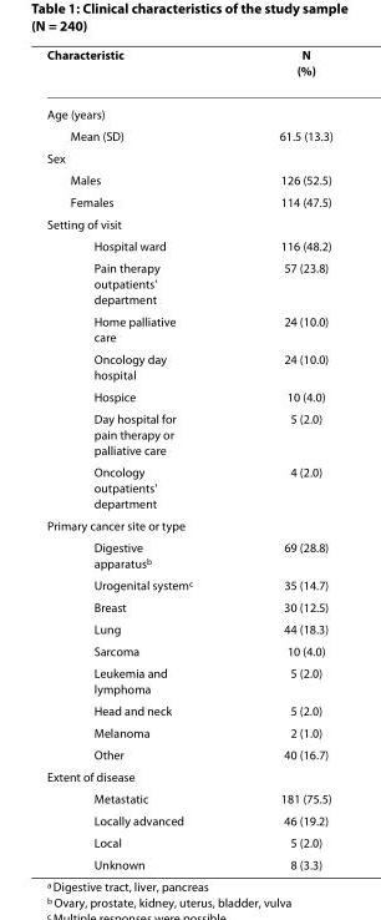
<table><thead><tr><td>Characteristic</td><td>N (%)</td></tr></thead><tbody><tr><td colspan="2">Age (years)</td></tr><tr><td>Mean (SD)</td><td>61.5 (13.3)</td></tr><tr><td colspan="2">Sex</td></tr><tr><td>Males</td><td>126 (52.5)</td></tr><tr><td>Females</td><td>114 (47.5)</td></tr><tr><td colspan="2">Setting of visit</td></tr><tr><td>Hospital ward</td><td>116 (48.2)</td></tr><tr><td>Pain therapy outpatients&#x27; department</td><td>57 (23.8)</td></tr><tr><td>Home palliative care</td><td>24 (10.0)</td></tr><tr><td>Oncology day hospital</td><td>24 (10.0)</td></tr><tr><td>Hospice</td><td>10 (4.0)</td></tr><tr><td>Day hospital for pain therapy or palliative care</td><td>5 (2.0)</td></tr><tr><td>Oncology outpatients&#x27; department</td><td>4 (2.0)</td></tr><tr><td colspan="2">Primary cancer site or type</td></tr><tr><td>Digestive apparatus<sup>b</sup></td><td>69 (28.8)</td></tr><tr><td>Urogenital system<sup>c</sup></td><td>35 (14.7)</td></tr><tr><td>Breast</td><td>30 (12.5)</td></tr><tr><td>Lung</td><td>44 (18.3)</td></tr><tr><td>Sarcoma</td><td>10 (4.0)</td></tr><tr><td>Leukemia and lymphoma</td><td>5 (2.0)</td></tr><tr><td>Head and neck</td><td>5 (2.0)</td></tr><tr><td>Melanoma</td><td>2 (1.0)</td></tr><tr><td>Other</td><td>40 (16.7)</td></tr><tr><td colspan="2">Extent of disease</td></tr><tr><td>Metastatic</td><td>181 (75.5)</td></tr><tr><td>Locally advanced</td><td>46 (19.2)</td></tr><tr><td>Local</td><td>5 (2.0)</td></tr><tr><td>Unknown</td><td>8 (3.3)</td></tr></tbody></table>